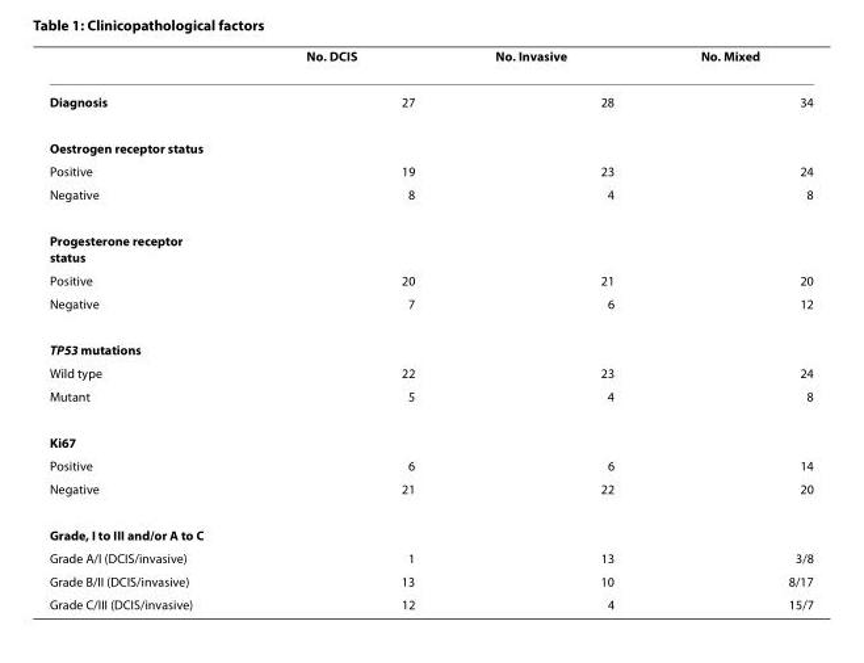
<table><thead><tr><td></td><td>No. DCIS</td><td>No. Invasive</td><td>No. Mixed</td></tr></thead><tbody><tr><td>Diagnosis</td><td>27</td><td>28</td><td>34</td></tr><tr><td colspan="4">Oestrogen receptor status</td></tr><tr><td>Positive</td><td>19</td><td>23</td><td>24</td></tr><tr><td>Negative</td><td>8</td><td>4</td><td>8</td></tr><tr><td colspan="4">Progesterone receptor status</td></tr><tr><td>Positive</td><td>20</td><td>21</td><td>20</td></tr><tr><td>Negative</td><td>7</td><td>6</td><td>12</td></tr><tr><td colspan="4">TP53 mutations</td></tr><tr><td>Wild type</td><td>22</td><td>23</td><td>24</td></tr><tr><td>Mutant</td><td>5</td><td>4</td><td>8</td></tr><tr><td colspan="4">Ki67</td></tr><tr><td>Positive</td><td>6</td><td>6</td><td>14</td></tr><tr><td>Negative</td><td>21</td><td>22</td><td>20</td></tr><tr><td colspan="4">Grade, I to III and/or A to C</td></tr><tr><td>Grade A/I (DCIS/invasive)</td><td>1</td><td>13</td><td>3/8</td></tr><tr><td>Grade B/II (DCIS/invasive)</td><td>13</td><td>10</td><td>8/17</td></tr><tr><td>Grade C/III (DCIS/invasive)</td><td>12</td><td>4</td><td>15/7</td></tr></tbody></table>